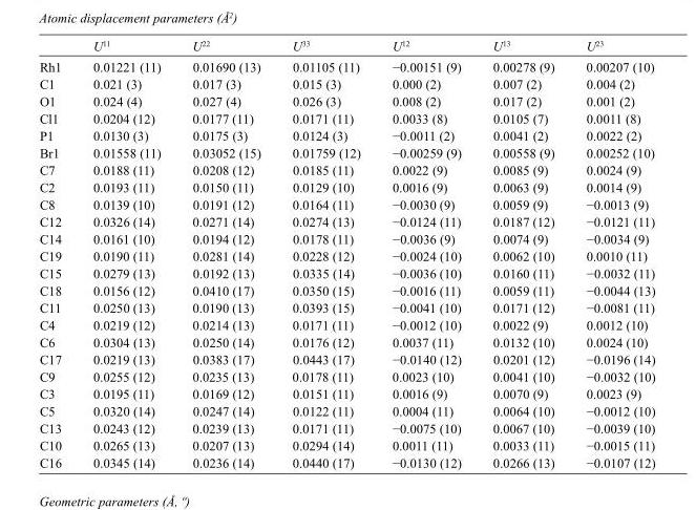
<table><thead><tr><td></td><td>U<sup>11</sup></td><td>U<sup>22</sup></td><td>U<sup>33</sup></td><td>U<sup>12</sup></td><td>U<sup>13</sup></td><td>U<sup>23</sup></td></tr></thead><tbody><tr><td>Rh1</td><td>0.01221 (11)</td><td>0.01690 (13)</td><td>0.01105 (11)</td><td>−0.00151 (9)</td><td>0.00278 (9)</td><td>0.00207 (10)</td></tr><tr><td>C1</td><td>0.021 (3)</td><td>0.017 (3)</td><td>0.015 (3)</td><td>0.000 (2)</td><td>0.007 (2)</td><td>0.004 (2)</td></tr><tr><td>O1</td><td>0.024 (4)</td><td>0.027 (4)</td><td>0.026 (3)</td><td>0.008 (2)</td><td>0.017 (2)</td><td>0.001 (2)</td></tr><tr><td>Cl1</td><td>0.0204 (12)</td><td>0.0177 (11)</td><td>0.0171 (11)</td><td>0.0033 (8)</td><td>0.0105 (7)</td><td>0.0011 (8)</td></tr><tr><td>P1</td><td>0.0130 (3)</td><td>0.0175 (3)</td><td>0.0124 (3)</td><td>−0.0011 (2)</td><td>0.0041 (2)</td><td>0.0022 (2)</td></tr><tr><td>Br1</td><td>0.01558 (11)</td><td>0.03052 (15)</td><td>0.01759 (12)</td><td>−0.00259 (9)</td><td>0.00558 (9)</td><td>0.00252 (10)</td></tr><tr><td>C7</td><td>0.0188 (11)</td><td>0.0208 (12)</td><td>0.0185 (11)</td><td>0.0022 (9)</td><td>0.0085 (9)</td><td>0.0024 (9)</td></tr><tr><td>C2</td><td>0.0193 (11)</td><td>0.0150 (11)</td><td>0.0129 (10)</td><td>0.0016 (9)</td><td>0.0063 (9)</td><td>0.0014 (9)</td></tr><tr><td>C8</td><td>0.0139 (10)</td><td>0.0191 (12)</td><td>0.0164 (11)</td><td>−0.0030 (9)</td><td>0.0059 (9)</td><td>−0.0013 (9)</td></tr><tr><td>C12</td><td>0.0326 (14)</td><td>0.0271 (14)</td><td>0.0274 (13)</td><td>−0.0124 (11)</td><td>0.0187 (12)</td><td>−0.0121 (11)</td></tr><tr><td>C14</td><td>0.0161 (10)</td><td>0.0194 (12)</td><td>0.0178 (11)</td><td>−0.0036 (9)</td><td>0.0074 (9)</td><td>−0.0034 (9)</td></tr><tr><td>C19</td><td>0.0190 (11)</td><td>0.0281 (14)</td><td>0.0228 (12)</td><td>−0.0024 (10)</td><td>0.0062 (10)</td><td>0.0010 (11)</td></tr><tr><td>C15</td><td>0.0279 (13)</td><td>0.0192 (13)</td><td>0.0335 (14)</td><td>−0.0036 (10)</td><td>0.0160 (11)</td><td>−0.0032 (11)</td></tr><tr><td>C18</td><td>0.0156 (12)</td><td>0.0410 (17)</td><td>0.0350 (15)</td><td>−0.0016 (11)</td><td>0.0059 (11)</td><td>−0.0044 (13)</td></tr><tr><td>C11</td><td>0.0250 (13)</td><td>0.0190 (13)</td><td>0.0393 (15)</td><td>−0.0041 (10)</td><td>0.0171 (12)</td><td>−0.0081 (11)</td></tr><tr><td>C4</td><td>0.0219 (12)</td><td>0.0214 (13)</td><td>0.0171 (11)</td><td>−0.0012 (10)</td><td>0.0022 (9)</td><td>0.0012 (10)</td></tr><tr><td>C6</td><td>0.0304 (13)</td><td>0.0250 (14)</td><td>0.0176 (12)</td><td>0.0037 (11)</td><td>0.0132 (10)</td><td>0.0024 (10)</td></tr><tr><td>C17</td><td>0.0219 (13)</td><td>0.0383 (17)</td><td>0.0443 (17)</td><td>−0.0140 (12)</td><td>0.0201 (12)</td><td>−0.0196 (14)</td></tr><tr><td>C9</td><td>0.0255 (12)</td><td>0.0235 (13)</td><td>0.0178 (11)</td><td>0.0023 (10)</td><td>0.0041 (10)</td><td>−0.0032 (10)</td></tr><tr><td>C3</td><td>0.0195 (11)</td><td>0.0169 (12)</td><td>0.0151 (11)</td><td>0.0016 (9)</td><td>0.0070 (9)</td><td>0.0023 (9)</td></tr><tr><td>C5</td><td>0.0320 (14)</td><td>0.0247 (14)</td><td>0.0122 (11)</td><td>0.0004 (11)</td><td>0.0064 (10)</td><td>−0.0012 (10)</td></tr><tr><td>C13</td><td>0.0243 (12)</td><td>0.0239 (13)</td><td>0.0171 (11)</td><td>−0.0075 (10)</td><td>0.0067 (10)</td><td>−0.0039 (10)</td></tr><tr><td>C10</td><td>0.0265 (13)</td><td>0.0207 (13)</td><td>0.0294 (14)</td><td>0.0011 (11)</td><td>0.0033 (11)</td><td>−0.0015 (11)</td></tr><tr><td>C16</td><td>0.0345 (14)</td><td>0.0236 (14)</td><td>0.0440 (17)</td><td>−0.0130 (12)</td><td>0.0266 (13)</td><td>−0.0107 (12)</td></tr></tbody></table>